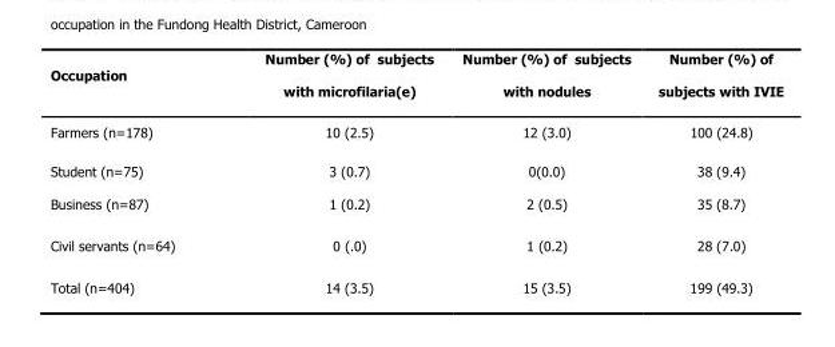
<table><thead><tr><td>Occupation</td><td>Number (%) of subjects with microfilaria(e)</td><td>Number (%) of subjects with nodules</td><td>Number (%) of subjects with IVIE</td></tr></thead><tbody><tr><td>Farmers (n=178)</td><td>10 (2.5)</td><td>12 (3.0)</td><td>100 (24.8)</td></tr><tr><td>Student (n=75)</td><td>3 (0.7)</td><td>0(0.0)</td><td>38 (9.4)</td></tr><tr><td>Business (n=87)</td><td>1 (0.2)</td><td>2 (0.5)</td><td>35 (8.7)</td></tr><tr><td>Civil servants (n=64)</td><td>0 (.0)</td><td>1 (0.2)</td><td>28 (7.0)</td></tr><tr><td>Total (n=404)</td><td>14 (3.5)</td><td>15 (3.5)</td><td>199 (49.3)</td></tr></tbody></table>